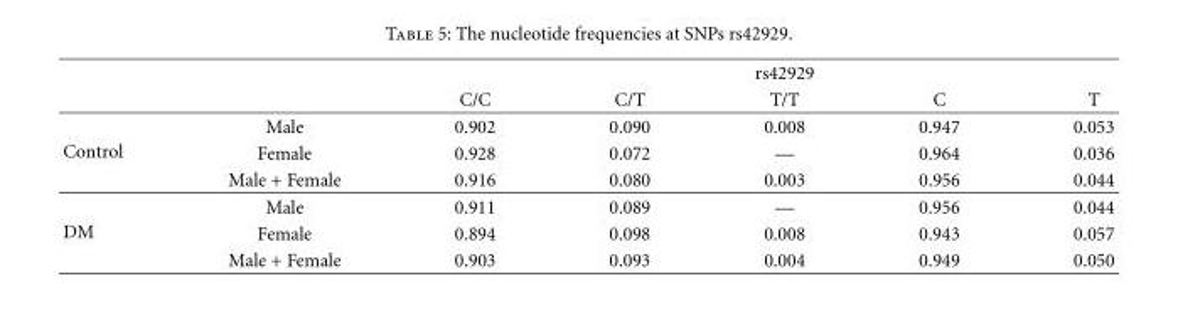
<table><thead><tr><td rowspan="2"></td><td rowspan="2"></td><td colspan="5">rs42929</td></tr><tr><td>C/C</td><td>C/T</td><td>T/T</td><td>C</td><td>T</td></tr></thead><tbody><tr><td rowspan="3">Control</td><td>Male</td><td>0.902</td><td>0.090</td><td>0.008</td><td>0.947</td><td>0.053</td></tr><tr><td>Female</td><td>0.928</td><td>0.072</td><td>—</td><td>0.964</td><td>0.036</td></tr><tr><td>Male + Female</td><td>0.916</td><td>0.080</td><td>0.003</td><td>0.956</td><td>0.044</td></tr><tr><td rowspan="3">DM</td><td>Male</td><td>0.911</td><td>0.089</td><td>—</td><td>0.956</td><td>0.044</td></tr><tr><td>Female</td><td>0.894</td><td>0.098</td><td>0.008</td><td>0.943</td><td>0.057</td></tr><tr><td>Male + Female</td><td>0.903</td><td>0.093</td><td>0.004</td><td>0.949</td><td>0.050</td></tr></tbody></table>